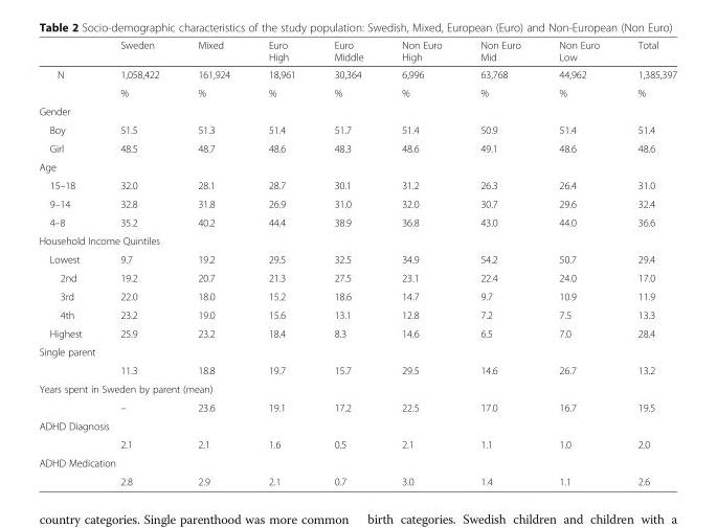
<table><thead><tr><td></td><td>Sweden</td><td>Mixed</td><td>Euro High</td><td>Euro Middle</td><td>Non Euro High</td><td>Non Euro Mid</td><td>Non Euro Low</td><td>Total</td></tr></thead><tbody><tr><td rowspan="2">N</td><td>1,058,422</td><td>161,924</td><td>18,961</td><td>30,364</td><td>6,996</td><td>63,768</td><td>44,962</td><td>1,385,397</td></tr><tr><td>%</td><td>%</td><td>%</td><td>%</td><td>%</td><td>%</td><td>%</td><td>%</td></tr><tr><td colspan="9">Gender</td></tr><tr><td>Boy</td><td>51.5</td><td>51.3</td><td>51.4</td><td>51.7</td><td>51.4</td><td>50.9</td><td>51.4</td><td>51.4</td></tr><tr><td>Girl</td><td>48.5</td><td>48.7</td><td>48.6</td><td>48.3</td><td>48.6</td><td>49.1</td><td>48.6</td><td>48.6</td></tr><tr><td colspan="9">Age</td></tr><tr><td>15–18</td><td>32.0</td><td>28.1</td><td>28.7</td><td>30.1</td><td>31.2</td><td>26.3</td><td>26.4</td><td>31.0</td></tr><tr><td>9–14</td><td>32.8</td><td>31.8</td><td>26.9</td><td>31.0</td><td>32.0</td><td>30.7</td><td>29.6</td><td>32.4</td></tr><tr><td>4–8</td><td>35.2</td><td>40.2</td><td>44.4</td><td>38.9</td><td>36.8</td><td>43.0</td><td>44.0</td><td>36.6</td></tr><tr><td colspan="9">Household Income Quintiles</td></tr><tr><td>Lowest</td><td>9.7</td><td>19.2</td><td>29.5</td><td>32.5</td><td>34.9</td><td>54.2</td><td>50.7</td><td>29.4</td></tr><tr><td>2nd</td><td>19.2</td><td>20.7</td><td>21.3</td><td>27.5</td><td>23.1</td><td>22.4</td><td>24.0</td><td>17.0</td></tr><tr><td>3rd</td><td>22.0</td><td>18.0</td><td>15.2</td><td>18.6</td><td>14.7</td><td>9.7</td><td>10.9</td><td>11.9</td></tr><tr><td>4th</td><td>23.2</td><td>19.0</td><td>15.6</td><td>13.1</td><td>12.8</td><td>7.2</td><td>7.5</td><td>13.3</td></tr><tr><td>Highest</td><td>25.9</td><td>23.2</td><td>18.4</td><td>8.3</td><td>14.6</td><td>6.5</td><td>7.0</td><td>28.4</td></tr><tr><td colspan="9">Single parent</td></tr><tr><td></td><td>11.3</td><td>18.8</td><td>19.7</td><td>15.7</td><td>29.5</td><td>14.6</td><td>26.7</td><td>13.2</td></tr><tr><td colspan="9">Years spent in Sweden by parent (mean)</td></tr><tr><td></td><td>–</td><td>23.6</td><td>19.1</td><td>17.2</td><td>22.5</td><td>17.0</td><td>16.7</td><td>19.5</td></tr><tr><td colspan="9">ADHD Diagnosis</td></tr><tr><td></td><td>2.1</td><td>2.1</td><td>1.6</td><td>0.5</td><td>2.1</td><td>1.1</td><td>1.0</td><td>2.0</td></tr><tr><td colspan="9">ADHD Medication</td></tr><tr><td></td><td>2.8</td><td>2.9</td><td>2.1</td><td>0.7</td><td>3.0</td><td>1.4</td><td>1.1</td><td>2.6</td></tr></tbody></table>